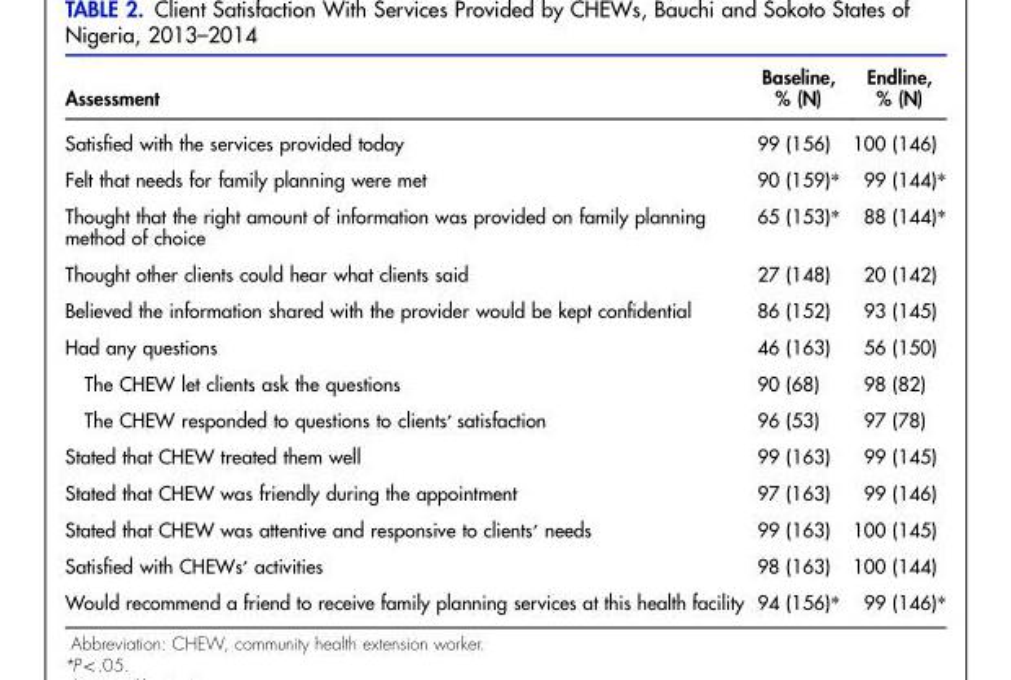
<table><thead><tr><td>Assessment</td><td>Baseline, % (N)</td><td>Endline, % (N)</td></tr></thead><tbody><tr><td>Satisfied with the services provided today</td><td>99 (156)</td><td>100 (146)</td></tr><tr><td>Felt that needs for family planning were met</td><td>90 (159)*</td><td>99 (144)*</td></tr><tr><td>Thought that the right amount of information was provided on family planning method of choice</td><td>65 (153)*</td><td>88 (144)*</td></tr><tr><td>Thought other clients could hear what clients said</td><td>27 (148)</td><td>20 (142)</td></tr><tr><td>Believed the information shared with the provider would be kept confidential</td><td>86 (152)</td><td>93 (145)</td></tr><tr><td>Had any questions</td><td>46 (163)</td><td>56 (150)</td></tr><tr><td>The CHEW let clients ask the questions</td><td>90 (68)</td><td>98 (82)</td></tr><tr><td>The CHEW responded to questions to clients’ satisfaction</td><td>96 (53)</td><td>97 (78)</td></tr><tr><td>Stated that CHEW treated them well</td><td>99 (163)</td><td>99 (145)</td></tr><tr><td>Stated that CHEW was friendly during the appointment</td><td>97 (163)</td><td>99 (146)</td></tr><tr><td>Stated that CHEW was attentive and responsive to clients’ needs</td><td>99 (163)</td><td>100 (145)</td></tr><tr><td>Satisfied with CHEWs’ activities</td><td>98 (163)</td><td>100 (144)</td></tr><tr><td>Would recommend a friend to receive family planning services at this health facility</td><td>94 (156)*</td><td>99 (146)*</td></tr></tbody></table>